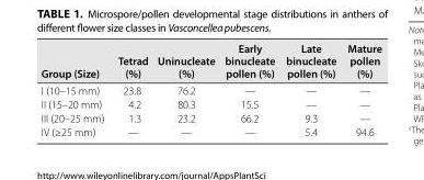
<table><thead><tr><td>Group (Size)</td><td>Tetrad (%)</td><td>Uninucleate (%)</td><td>Early binucleate pollen (%)</td><td>Late binucleate pollen (%)</td><td>Mature pollen (%)</td></tr></thead><tbody><tr><td>I (10–15 mm)</td><td>23.8</td><td>76.2</td><td>—</td><td>—</td><td>—</td></tr><tr><td>II (15–20 mm)</td><td>4.2</td><td>80.3</td><td>15.5</td><td>—</td><td>—</td></tr><tr><td>III (20–25 mm)</td><td>1.3</td><td>23.2</td><td>66.2</td><td>9.3</td><td>—</td></tr><tr><td>IV (≥25 mm)</td><td>—</td><td>—</td><td>—</td><td>5.4</td><td>94.6</td></tr></tbody></table>